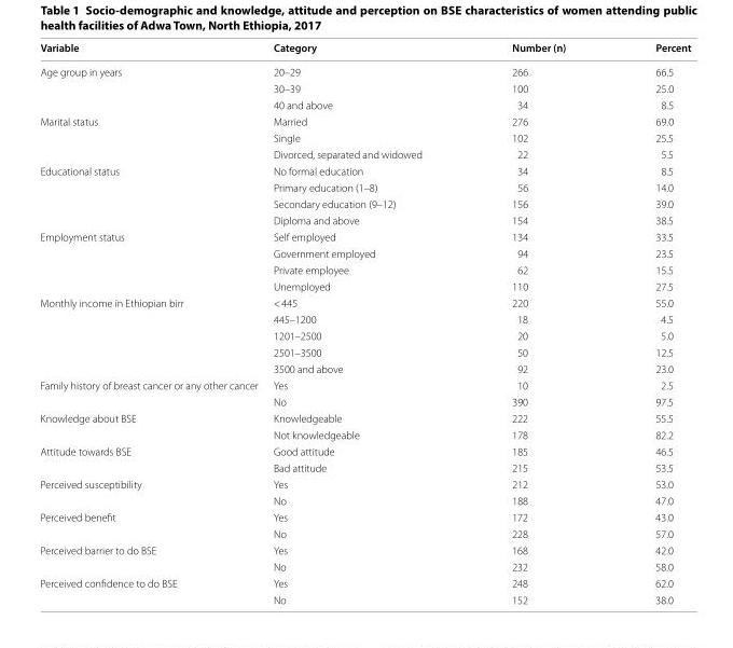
<table><thead><tr><td>Variable</td><td>Category</td><td>Number (n)</td><td>Percent</td></tr></thead><tbody><tr><td rowspan="3">Age group in years</td><td>20–29</td><td>266</td><td>66.5</td></tr><tr><td>30–39</td><td>100</td><td>25.0</td></tr><tr><td>40 and above</td><td>34</td><td>8.5</td></tr><tr><td rowspan="3">Marital status</td><td>Married</td><td>276</td><td>69.0</td></tr><tr><td>Single</td><td>102</td><td>25.5</td></tr><tr><td>Divorced, separated and widowed</td><td>22</td><td>5.5</td></tr><tr><td rowspan="4">Educational status</td><td>No formal education</td><td>34</td><td>8.5</td></tr><tr><td>Primary education (1–8)</td><td>56</td><td>14.0</td></tr><tr><td>Secondary education (9–12)</td><td>156</td><td>39.0</td></tr><tr><td>Diploma and above</td><td>154</td><td>38.5</td></tr><tr><td rowspan="4">Employment status</td><td>Self employed</td><td>134</td><td>33.5</td></tr><tr><td>Government employed</td><td>94</td><td>23.5</td></tr><tr><td>Private employee</td><td>62</td><td>15.5</td></tr><tr><td>Unemployed</td><td>110</td><td>27.5</td></tr><tr><td rowspan="5">Monthly income in Ethiopian birr</td><td>&lt; 445</td><td>220</td><td>55.0</td></tr><tr><td>445–1200</td><td>18</td><td>4.5</td></tr><tr><td>1201–2500</td><td>20</td><td>5.0</td></tr><tr><td>2501–3500</td><td>50</td><td>12.5</td></tr><tr><td>3500 and above</td><td>92</td><td>23.0</td></tr><tr><td rowspan="2">Family history of breast cancer or any other cancer</td><td>Yes</td><td>10</td><td>2.5</td></tr><tr><td>No</td><td>390</td><td>97.5</td></tr><tr><td rowspan="2">Knowledge about BSE</td><td>Knowledgeable</td><td>222</td><td>55.5</td></tr><tr><td>Not knowledgeable</td><td>178</td><td>82.2</td></tr><tr><td rowspan="2">Attitude towards BSE</td><td>Good attitude</td><td>185</td><td>46.5</td></tr><tr><td>Bad attitude</td><td>215</td><td>53.5</td></tr><tr><td rowspan="2">Perceived susceptibility</td><td>Yes</td><td>212</td><td>53.0</td></tr><tr><td>No</td><td>188</td><td>47.0</td></tr><tr><td rowspan="2">Perceived benefit</td><td>Yes</td><td>172</td><td>43.0</td></tr><tr><td>No</td><td>228</td><td>57.0</td></tr><tr><td rowspan="2">Perceived barrier to do BSE</td><td>Yes</td><td>168</td><td>42.0</td></tr><tr><td>No</td><td>232</td><td>58.0</td></tr><tr><td rowspan="2">Perceived confidence to do BSE</td><td>Yes</td><td>248</td><td>62.0</td></tr><tr><td>No</td><td>152</td><td>38.0</td></tr></tbody></table>